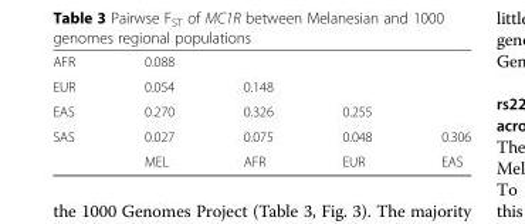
<table><tbody><tr><td>AFR</td><td>0.088</td><td></td><td></td><td></td></tr><tr><td>EUR</td><td>0.054</td><td>0.148</td><td></td><td></td></tr><tr><td>EAS</td><td>0.270</td><td>0.326</td><td>0.255</td><td></td></tr><tr><td rowspan="2">SAS</td><td>0.027</td><td>0.075</td><td>0.048</td><td>0.306</td></tr><tr><td>MEL</td><td>AFR</td><td>EUR</td><td>EAS</td></tr></tbody></table>